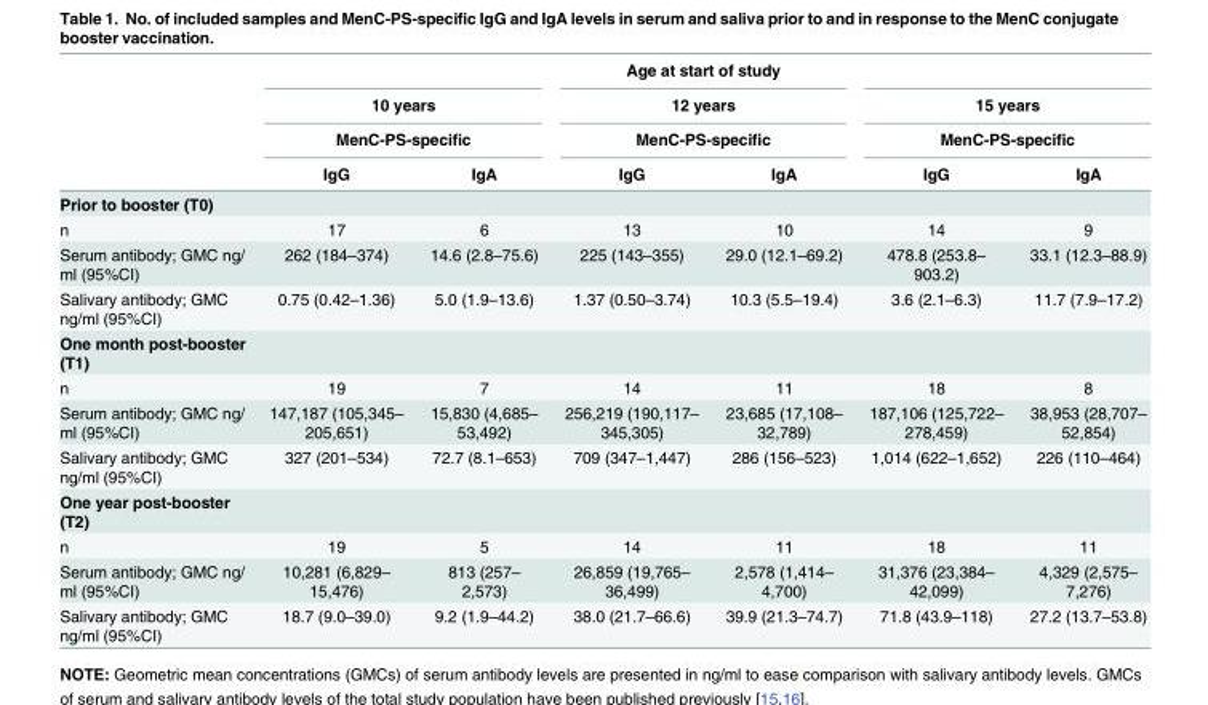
<table><thead><tr><td rowspan="4"></td><td></td><td></td><td rowspan="3" colspan="2">Age at start of study 12 years MenC-PS-specific</td><td></td><td></td></tr><tr><td rowspan="2" colspan="2">10 years MenC-PS-specific</td><td rowspan="2" colspan="2">15 years MenC-PS-specific</td></tr><tr></tr><tr><td>IgG</td><td>IgA</td><td>IgG</td><td>IgA</td><td>IgG</td><td>IgA</td></tr></thead><tbody><tr><td colspan="7">Prior to booster (T0)</td></tr><tr><td>n</td><td>17</td><td>6</td><td>13</td><td>10</td><td>14</td><td>9</td></tr><tr><td>Serum antibody; GMC ng/ ml (95%CI)</td><td>262 (184–374)</td><td>14.6 (2.8–75.6)</td><td>225 (143–355)</td><td>29.0 (12.1–69.2)</td><td>478.8 (253.8– 903.2)</td><td>33.1 (12.3–88.9)</td></tr><tr><td>Salivary antibody; GMC ng/ml (95%CI)</td><td>0.75 (0.42–1.36)</td><td>5.0 (1.9–13.6)</td><td>1.37 (0.50–3.74)</td><td>10.3 (5.5–19.4)</td><td>3.6 (2.1–6.3)</td><td>11.7 (7.9–17.2)</td></tr><tr><td colspan="7">One month post-booster (T1)</td></tr><tr><td>n</td><td>19</td><td>7</td><td>14</td><td>11</td><td>18</td><td>8</td></tr><tr><td>Serum antibody; GMC ng/ ml (95%CI)</td><td>147,187 (105,345– 205,651)</td><td>15,830 (4,685– 53,492)</td><td>256,219 (190,117– 345,305)</td><td>23,685 (17,108– 32,789)</td><td>187,106 (125,722– 278,459)</td><td>38,953 (28,707– 52,854)</td></tr><tr><td>Salivary antibody; GMC ng/ml (95%CI)</td><td>327 (201–534)</td><td>72.7 (8.1–653)</td><td>709 (347–1,447)</td><td>286 (156–523)</td><td>1,014 (622–1,652)</td><td>226 (110–464)</td></tr><tr><td colspan="7">One year post-booster (T2)</td></tr><tr><td>n</td><td>19</td><td>5</td><td>14</td><td>11</td><td>18</td><td>11</td></tr><tr><td>Serum antibody; GMC ng/ ml (95%CI)</td><td>10,281 (6,829– 15,476)</td><td>813 (257– 2,573)</td><td>26,859 (19,765– 36,499)</td><td>2,578 (1,414– 4,700)</td><td>31,376 (23,384– 42,099)</td><td>4,329 (2,575– 7,276)</td></tr><tr><td>Salivary antibody; GMC ng/ml (95%CI)</td><td>18.7 (9.0–39.0)</td><td>9.2 (1.9–44.2)</td><td>38.0 (21.7–66.6)</td><td>39.9 (21.3–74.7)</td><td>71.8 (43.9–118)</td><td>27.2 (13.7–53.8)</td></tr></tbody></table>